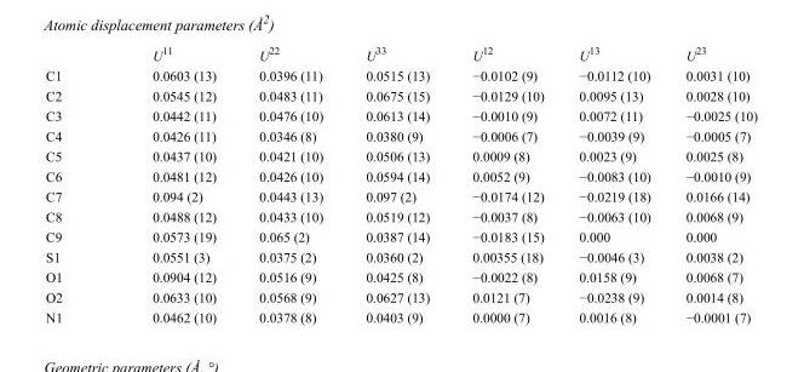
<table><thead><tr><td></td><td>U<sup>11</sup></td><td>U<sup>22</sup></td><td>U<sup>33</sup></td><td>U<sup>12</sup></td><td>U<sup>13</sup></td><td>U<sup>23</sup></td></tr></thead><tbody><tr><td>C1</td><td>0.0603 (13)</td><td>0.0396 (11)</td><td>0.0515 (13)</td><td>−0.0102 (9)</td><td>−0.0112 (10)</td><td>0.0031 (10)</td></tr><tr><td>C2</td><td>0.0545 (12)</td><td>0.0483 (11)</td><td>0.0675 (15)</td><td>−0.0129 (10)</td><td>0.0095 (13)</td><td>0.0028 (10)</td></tr><tr><td>C3</td><td>0.0442 (11)</td><td>0.0476 (10)</td><td>0.0613 (14)</td><td>−0.0010 (9)</td><td>0.0072 (11)</td><td>−0.0025 (10)</td></tr><tr><td>C4</td><td>0.0426 (11)</td><td>0.0346 (8)</td><td>0.0380 (9)</td><td>−0.0006 (7)</td><td>−0.0039 (9)</td><td>−0.0005 (7)</td></tr><tr><td>C5</td><td>0.0437 (10)</td><td>0.0421 (10)</td><td>0.0506 (13)</td><td>0.0009 (8)</td><td>0.0023 (9)</td><td>0.0025 (8)</td></tr><tr><td>C6</td><td>0.0481 (12)</td><td>0.0426 (10)</td><td>0.0594 (14)</td><td>0.0052 (9)</td><td>−0.0083 (10)</td><td>−0.0010 (9)</td></tr><tr><td>C7</td><td>0.094 (2)</td><td>0.0443 (13)</td><td>0.097 (2)</td><td>−0.0174 (12)</td><td>−0.0219 (18)</td><td>0.0166 (14)</td></tr><tr><td>C8</td><td>0.0488 (12)</td><td>0.0433 (10)</td><td>0.0519 (12)</td><td>−0.0037 (8)</td><td>−0.0063 (10)</td><td>0.0068 (9)</td></tr><tr><td>C9</td><td>0.0573 (19)</td><td>0.065 (2)</td><td>0.0387 (14)</td><td>−0.0183 (15)</td><td>0.000</td><td>0.000</td></tr><tr><td>S1</td><td>0.0551 (3)</td><td>0.0375 (2)</td><td>0.0360 (2)</td><td>0.00355 (18)</td><td>−0.0046 (3)</td><td>0.0038 (2)</td></tr><tr><td>O1</td><td>0.0904 (12)</td><td>0.0516 (9)</td><td>0.0425 (8)</td><td>−0.0022 (8)</td><td>0.0158 (9)</td><td>0.0068 (7)</td></tr><tr><td>O2</td><td>0.0633 (10)</td><td>0.0568 (9)</td><td>0.0627 (13)</td><td>0.0121 (7)</td><td>−0.0238 (9)</td><td>0.0014 (8)</td></tr><tr><td>N1</td><td>0.0462 (10)</td><td>0.0378 (8)</td><td>0.0403 (9)</td><td>0.0000 (7)</td><td>0.0016 (8)</td><td>−0.0001 (7)</td></tr></tbody></table>